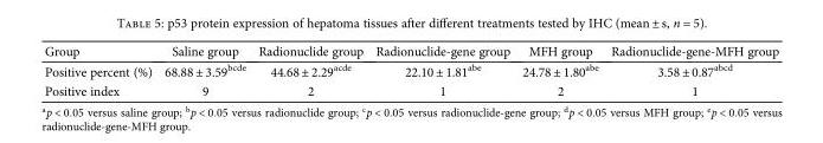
<table><thead><tr><td>Group</td><td>Saline group</td><td>Radionuclide group</td><td>Radionuclide-gene group</td><td>MFH group</td><td>Radionuclide-gene-MFH group</td></tr></thead><tbody><tr><td>Positive percent (%)</td><td>68.88 ± 3.59<sup>bcde</sup></td><td>44.68 ± 2.29<sup>acde</sup></td><td>22.10 ± 1.81<sup>abe</sup></td><td>24.78 ± 1.80<sup>abe</sup></td><td>3.58 ± 0.87<sup>abcd</sup></td></tr><tr><td>Positive index</td><td>9</td><td>2</td><td>1</td><td>2</td><td>1</td></tr></tbody></table>